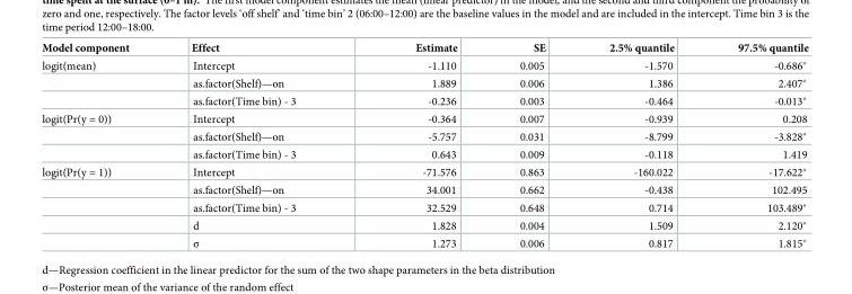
<table><thead><tr><td>Model component</td><td>Effect</td><td>Estimate</td><td>SE</td><td>2.5% quantile</td><td>97.5% quantile</td></tr></thead><tbody><tr><td rowspan="3">logit(mean)</td><td>Intercept</td><td>-1.110</td><td>0.005</td><td>-1.570</td><td>-0.686*</td></tr><tr><td>as.factor(Shelf)—on</td><td>1.889</td><td>0.006</td><td>1.386</td><td>2.407*</td></tr><tr><td>as.factor(Time bin) - 3</td><td>-0.236</td><td>0.003</td><td>-0.464</td><td>-0.013*</td></tr><tr><td rowspan="3">logit(Pr(y = 0))</td><td>Intercept</td><td>-0.364</td><td>0.007</td><td>-0.939</td><td>0.208</td></tr><tr><td>as.factor(Shelf)—on</td><td>-5.757</td><td>0.031</td><td>-8.799</td><td>-3.828*</td></tr><tr><td>as.factor(Time bin) - 3</td><td>0.643</td><td>0.009</td><td>-0.118</td><td>1.419</td></tr><tr><td rowspan="5">logit(Pr(y = 1))</td><td>Intercept</td><td>-71.576</td><td>0.863</td><td>-160.022</td><td>-17.622*</td></tr><tr><td>as.factor(Shelf)—on</td><td>34.001</td><td>0.662</td><td>-0.438</td><td>102.495</td></tr><tr><td>as.factor(Time bin) - 3</td><td>32.529</td><td>0.648</td><td>0.714</td><td>103.489*</td></tr><tr><td>d</td><td>1.828</td><td>0.004</td><td>1.509</td><td>2.120*</td></tr><tr><td>σ</td><td>1.273</td><td>0.006</td><td>0.817</td><td>1.815*</td></tr></tbody></table>